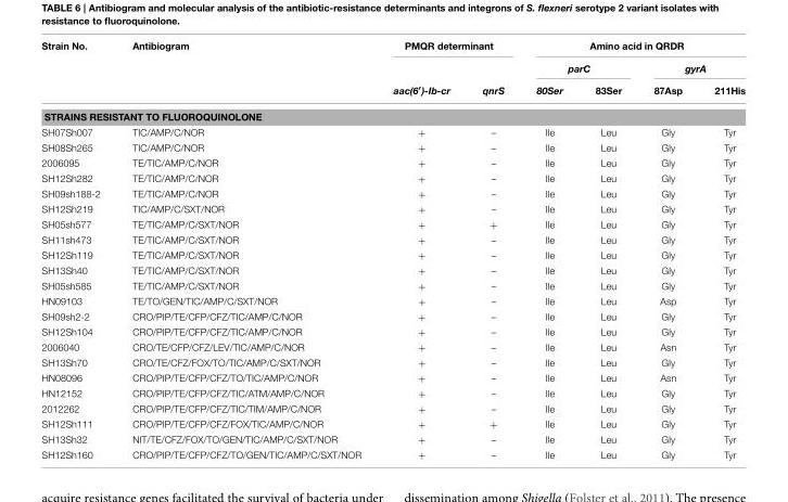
<table><thead><tr><td rowspan="3">Strain No.</td><td rowspan="3">Antibiogram</td><td colspan="2">PMQR determinant</td><td colspan="4">Amino acid in QRDR</td></tr><tr><td rowspan="2">aac(6′)-Ib-cr</td><td rowspan="2">qnrS</td><td colspan="2">parC</td><td colspan="2">gyrA</td></tr><tr><td>80Ser</td><td>83Ser</td><td>87Asp</td><td>211His</td></tr></thead><tbody><tr><td colspan="8">STRAINS RESISTANT TO FLUOROQUINOLONE</td></tr><tr><td>SH07Sh007</td><td>TIC/AMP/C/NOR</td><td>+</td><td>–</td><td>Ile</td><td>Leu</td><td>Gly</td><td>Tyr</td></tr><tr><td>SH08Sh265</td><td>TIC/AMP/C/NOR</td><td>+</td><td>–</td><td>Ile</td><td>Leu</td><td>Gly</td><td>Tyr</td></tr><tr><td>2006095</td><td>TE/TIC/AMP/C/NOR</td><td>+</td><td>–</td><td>Ile</td><td>Leu</td><td>Gly</td><td>Tyr</td></tr><tr><td>SH12Sh282</td><td>TE/TIC/AMP/C/NOR</td><td>+</td><td>–</td><td>Ile</td><td>Leu</td><td>Gly</td><td>Tyr</td></tr><tr><td>SH09sh188-2</td><td>TE/TIC/AMP/C/NOR</td><td>+</td><td>–</td><td>Ile</td><td>Leu</td><td>Gly</td><td>Tyr</td></tr><tr><td>SH12Sh219</td><td>TIC/AMP/C/SXT/NOR</td><td>+</td><td>–</td><td>Ile</td><td>Leu</td><td>Gly</td><td>Tyr</td></tr><tr><td>SH05sh577</td><td>TE/TIC/AMP/C/SXT/NOR</td><td>+</td><td>+</td><td>Ile</td><td>Leu</td><td>Gly</td><td>Tyr</td></tr><tr><td>SH11sh473</td><td>TE/TIC/AMP/C/SXT/NOR</td><td>+</td><td>–</td><td>Ile</td><td>Leu</td><td>Gly</td><td>Tyr</td></tr><tr><td>SH12Sh119</td><td>TE/TIC/AMP/C/SXT/NOR</td><td>+</td><td>–</td><td>Ile</td><td>Leu</td><td>Gly</td><td>Tyr</td></tr><tr><td>SH13Sh40</td><td>TE/TIC/AMP/C/SXT/NOR</td><td>+</td><td>–</td><td>Ile</td><td>Leu</td><td>Gly</td><td>Tyr</td></tr><tr><td>SH05sh585</td><td>TE/TIC/AMP/C/SXT/NOR</td><td>+</td><td>–</td><td>Ile</td><td>Leu</td><td>Gly</td><td>Tyr</td></tr><tr><td>HN09103</td><td>TE/TO/GEN/TIC/AMP/C/SXT/NOR</td><td>+</td><td>–</td><td>Ile</td><td>Leu</td><td>Asp</td><td>Tyr</td></tr><tr><td>SH09sh2-2</td><td>CRO/PIP/TE/CFP/CFZ/TIC/AMP/C/NOR</td><td>+</td><td>–</td><td>Ile</td><td>Leu</td><td>Gly</td><td>Tyr</td></tr><tr><td>SH12Sh104</td><td>CRO/PIP/TE/CFP/CFZ/TIC/AMP/C/NOR</td><td>+</td><td>–</td><td>Ile</td><td>Leu</td><td>Gly</td><td>Tyr</td></tr><tr><td>2006040</td><td>CRO/TE/CFP/CFZ/LEV/TIC/AMP/C/NOR</td><td>+</td><td>–</td><td>Ile</td><td>Leu</td><td>Asn</td><td>Tyr</td></tr><tr><td>SH13Sh70</td><td>CRO/TE/CFZ/FOX/TO/TIC/AMP/C/SXT/NOR</td><td>+</td><td>–</td><td>Ile</td><td>Leu</td><td>Gly</td><td>Tyr</td></tr><tr><td>HN08096</td><td>CRO/PIP/TE/CFP/CFZ/TO/TIC/AMP/C/NOR</td><td>+</td><td>–</td><td>Ile</td><td>Leu</td><td>Asn</td><td>Tyr</td></tr><tr><td>HN12152</td><td>CRO/PIP/TE/CFP/CFZ/TIC/ATM/AMP/C/NOR</td><td>+</td><td>–</td><td>Ile</td><td>Leu</td><td>Gly</td><td>Tyr</td></tr><tr><td>2012262</td><td>CRO/PIP/TE/CFP/CFZ/TIC/TIM/AMP/C/NOR</td><td>+</td><td>–</td><td>Ile</td><td>Leu</td><td>Gly</td><td>Tyr</td></tr><tr><td>SH12Sh111</td><td>CRO/PIP/TE/CFP/CFZ/FOX/TIC/AMP/C/NOR</td><td>+</td><td>+</td><td>Ile</td><td>Leu</td><td>Gly</td><td>Tyr</td></tr><tr><td>SH13Sh32</td><td>NIT/TE/CFZ/FOX/TO/GEN/TIC/AMP/C/SXT/NOR</td><td>+</td><td>–</td><td>Ile</td><td>Leu</td><td>Gly</td><td>Tyr</td></tr><tr><td>SH12Sh160</td><td>CRO/PIP/TE/CFP/CFZ/TO/GEN/TIC/AMP/C/SXT/NOR</td><td>+</td><td>–</td><td>Ile</td><td>Leu</td><td>Gly</td><td>Tyr</td></tr></tbody></table>